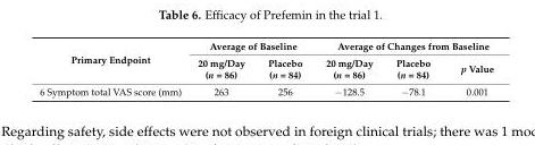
<table><thead><tr><td rowspan="2">Primary Endpoint</td><td colspan="2">Average of Baseline</td><td colspan="3">Average of Changes from Baseline</td></tr><tr><td>20 mg/Day (n = 86)</td><td>Placebo (n = 84)</td><td>20 mg/Day (n = 86)</td><td>Placebo (n = 84)</td><td>p Value</td></tr></thead><tbody><tr><td>6 Symptom total VAS score (mm)</td><td>263</td><td>256</td><td>−128.5</td><td>−78.1</td><td>0.001</td></tr></tbody></table>